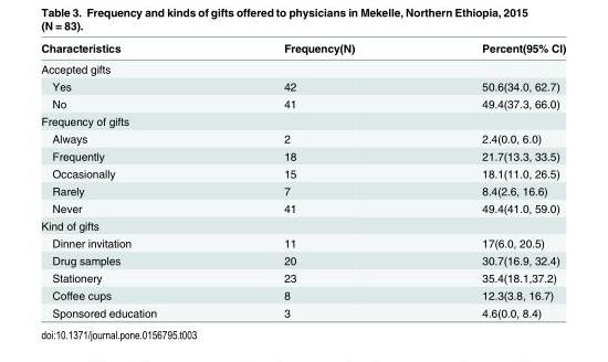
<table><thead><tr><td>Characteristics</td><td>Frequency(N)</td><td>Percent(95% CI)</td></tr></thead><tbody><tr><td colspan="3">Accepted gifts</td></tr><tr><td>Yes</td><td>42</td><td>50.6(34.0, 62.7)</td></tr><tr><td>No</td><td>41</td><td>49.4(37.3, 66.0)</td></tr><tr><td colspan="3">Frequency of gifts</td></tr><tr><td>Always</td><td>2</td><td>2.4(0.0, 6.0)</td></tr><tr><td>Frequently</td><td>18</td><td>21.7(13.3, 33.5)</td></tr><tr><td>Occasionally</td><td>15</td><td>18.1(11.0, 26.5)</td></tr><tr><td>Rarely</td><td>7</td><td>8.4(2.6, 16.6)</td></tr><tr><td>Never</td><td>41</td><td>49.4(41.0, 59.0)</td></tr><tr><td colspan="3">Kind of gifts</td></tr><tr><td>Dinner invitation</td><td>11</td><td>17(6.0, 20.5)</td></tr><tr><td>Drug samples</td><td>20</td><td>30.7(16.9, 32.4)</td></tr><tr><td>Stationery</td><td>23</td><td>35.4(18.1,37.2)</td></tr><tr><td>Coffee cups</td><td>8</td><td>12.3(3.8, 16.7)</td></tr><tr><td>Sponsored education</td><td>3</td><td>4.6(0.0, 8.4)</td></tr></tbody></table>